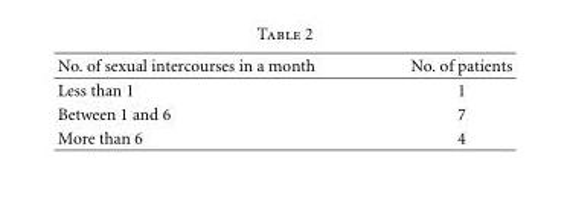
<table><thead><tr><td>No. of sexual intercourses in a month</td><td>No. of patients</td></tr></thead><tbody><tr><td>Less than 1</td><td>1</td></tr><tr><td>Between 1 and 6</td><td>7</td></tr><tr><td>More than 6</td><td>4</td></tr></tbody></table>